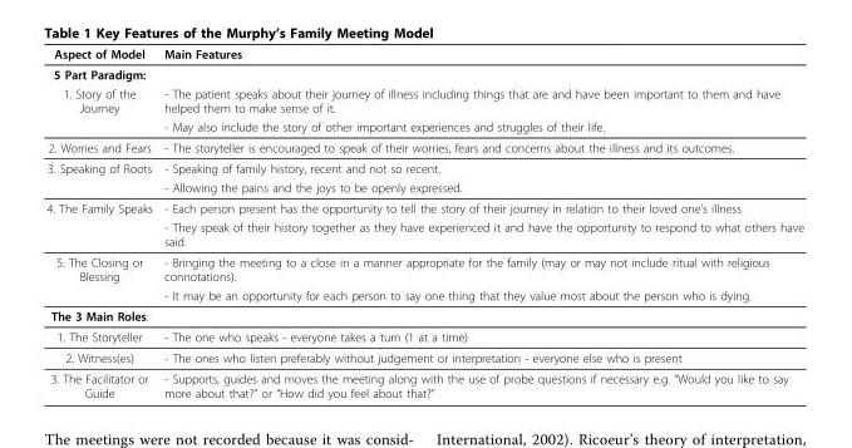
<table><thead><tr><td>Aspect of Model</td><td>Main Features</td></tr></thead><tbody><tr><td colspan="2">5 Part Paradigm:</td></tr><tr><td rowspan="2">1. Story of the Journey</td><td>- The patient speaks about their journey of illness including things that are and have been important to them and have helped them to make sense of it.</td></tr><tr><td>- May also include the story of other important experiences and struggles of their life.</td></tr><tr><td>2. Worries and Fears</td><td>- The storyteller is encouraged to speak of their worries, fears and concerns about the illness and its outcomes.</td></tr><tr><td rowspan="2">3. Speaking of Roots</td><td>- Speaking of family history, recent and not so recent.</td></tr><tr><td>- Allowing the pains and the joys to be openly expressed.</td></tr><tr><td rowspan="2">4. The Family Speaks</td><td>- Each person present has the opportunity to tell the story of their journey in relation to their loved one’s illness</td></tr><tr><td>- They speak of their history together as they have experienced it and have the opportunity to respond to what others have said.</td></tr><tr><td rowspan="2">5. The Closing or Blessing</td><td>- Bringing the meeting to a close in a manner appropriate for the family (may or may not include ritual with religious connotations).</td></tr><tr><td>- It may be an opportunity for each person to say one thing that they value most about the person who is dying.</td></tr><tr><td colspan="2">The 3 Main Roles:</td></tr><tr><td>1. The Storyteller</td><td>- The one who speaks - everyone takes a turn (1 at a time)</td></tr><tr><td>2. Witness(es)</td><td>- The ones who listen preferably without judgement or interpretation - everyone else who is present</td></tr><tr><td>3. The Facilitator or Guide</td><td>- Supports, guides and moves the meeting along with the use of probe questions if necessary e.g. “Would you like to say more about that?” or “How did you feel about that?”</td></tr></tbody></table>